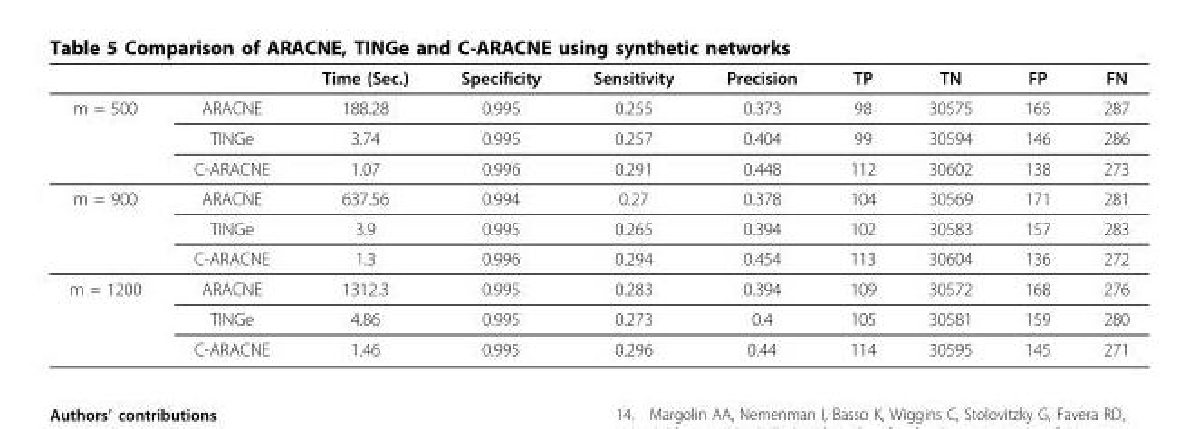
<table><thead><tr><td></td><td></td><td>Time (Sec.)</td><td>Specificity</td><td>Sensitivity</td><td>Precision</td><td>TP</td><td>TN</td><td>FP</td><td>FN</td></tr></thead><tbody><tr><td rowspan="3">m = 500</td><td>ARACNE</td><td>188.28</td><td>0.995</td><td>0.255</td><td>0.373</td><td>98</td><td>30575</td><td>165</td><td>287</td></tr><tr><td>TINGe</td><td>3.74</td><td>0.995</td><td>0.257</td><td>0.404</td><td>99</td><td>30594</td><td>146</td><td>286</td></tr><tr><td>C-ARACNE</td><td>1.07</td><td>0.996</td><td>0.291</td><td>0.448</td><td>112</td><td>30602</td><td>138</td><td>273</td></tr><tr><td rowspan="3">m = 900</td><td>ARACNE</td><td>637.56</td><td>0.994</td><td>0.27</td><td>0.378</td><td>104</td><td>30569</td><td>171</td><td>281</td></tr><tr><td>TINGe</td><td>3.9</td><td>0.995</td><td>0.265</td><td>0.394</td><td>102</td><td>30583</td><td>157</td><td>283</td></tr><tr><td>C-ARACNE</td><td>1.3</td><td>0.996</td><td>0.294</td><td>0.454</td><td>113</td><td>30604</td><td>136</td><td>272</td></tr><tr><td rowspan="3">m = 1200</td><td>ARACNE</td><td>1312.3</td><td>0.995</td><td>0.283</td><td>0.394</td><td>109</td><td>30572</td><td>168</td><td>276</td></tr><tr><td>TINGe</td><td>4.86</td><td>0.995</td><td>0.273</td><td>0.4</td><td>105</td><td>30581</td><td>159</td><td>280</td></tr><tr><td>C-ARACNE</td><td>1.46</td><td>0.995</td><td>0.296</td><td>0.44</td><td>114</td><td>30595</td><td>145</td><td>271</td></tr></tbody></table>